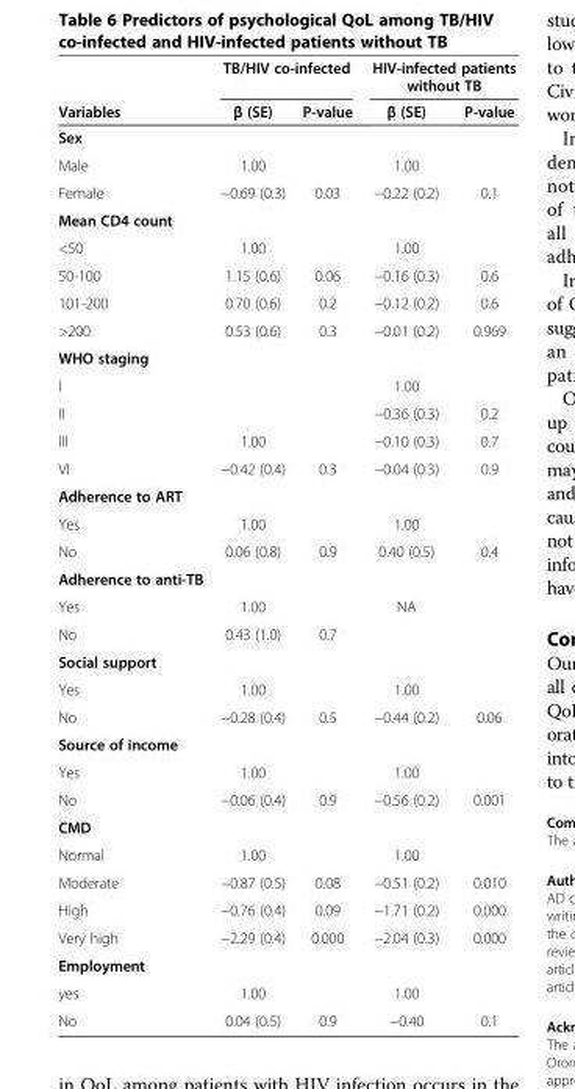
<table><thead><tr><td rowspan="2">Variables</td><td colspan="2">TB/HIV co-infected</td><td colspan="2">HIV-infected patients without TB</td></tr><tr><td>β (SE)</td><td>P-value</td><td>β (SE)</td><td>P-value</td></tr></thead><tbody><tr><td colspan="5">Sex</td></tr><tr><td>Male</td><td>1.00</td><td></td><td>1.00</td><td></td></tr><tr><td>Female</td><td>−0.69 (0.3)</td><td>0.03</td><td>−0.22 (0.2)</td><td>0.1</td></tr><tr><td colspan="5">Mean CD4 count</td></tr><tr><td>&lt;50</td><td>1.00</td><td></td><td>1.00</td><td></td></tr><tr><td>50-100</td><td>1.15 (0.6)</td><td>0.06</td><td>−0.16 (0.3)</td><td>0.6</td></tr><tr><td>101-200</td><td>0.70 (0.6)</td><td>0.2</td><td>−0.12 (0.2)</td><td>0.6</td></tr><tr><td>&gt;200</td><td>0.53 (0.6)</td><td>0.3</td><td>−0.01 (0.2)</td><td>0.969</td></tr><tr><td colspan="5">WHO staging</td></tr><tr><td>I</td><td></td><td></td><td>1.00</td><td></td></tr><tr><td>II</td><td></td><td></td><td>−0.36 (0.3)</td><td>0.2</td></tr><tr><td>III</td><td>1.00</td><td></td><td>−0.10 (0.3)</td><td>0.7</td></tr><tr><td>VI</td><td>−0.42 (0.4)</td><td>0.3</td><td>−0.04 (0.3)</td><td>0.9</td></tr><tr><td colspan="5">Adherence to ART</td></tr><tr><td>Yes</td><td>1.00</td><td></td><td>1.00</td><td></td></tr><tr><td>No</td><td>0.06 (0.8)</td><td>0.9</td><td>0.40 (0.5)</td><td>0.4</td></tr><tr><td colspan="5">Adherence to anti-TB</td></tr><tr><td>Yes</td><td>1.00</td><td></td><td>NA</td><td></td></tr><tr><td>No</td><td>0.43 (1.0)</td><td>0.7</td><td></td><td></td></tr><tr><td colspan="5">Social support</td></tr><tr><td>Yes</td><td>1.00</td><td></td><td>1.00</td><td></td></tr><tr><td>No</td><td>−0.28 (0.4)</td><td>0.5</td><td>−0.44 (0.2)</td><td>0.06</td></tr><tr><td colspan="5">Source of income</td></tr><tr><td>Yes</td><td>1.00</td><td></td><td>1.00</td><td></td></tr><tr><td>No</td><td>−0.06 (0.4)</td><td>0.9</td><td>−0.56 (0.2)</td><td>0.001</td></tr><tr><td colspan="5">CMD</td></tr><tr><td>Normal</td><td>1.00</td><td></td><td>1.00</td><td></td></tr><tr><td>Moderate</td><td>−0.87 (0.5)</td><td>0.08</td><td>−0.51 (0.2)</td><td>0.010</td></tr><tr><td>High</td><td>−0.76 (0.4)</td><td>0.09</td><td>−1.71 (0.2)</td><td>0.000</td></tr><tr><td>Very high</td><td>−2.29 (0.4)</td><td>0.000</td><td>−2.04 (0.3)</td><td>0.000</td></tr><tr><td colspan="5">Employment</td></tr><tr><td>yes</td><td>1.00</td><td></td><td>1.00</td><td></td></tr><tr><td>No</td><td>0.04 (0.5)</td><td>0.9</td><td>−0.40</td><td>0.1</td></tr></tbody></table>